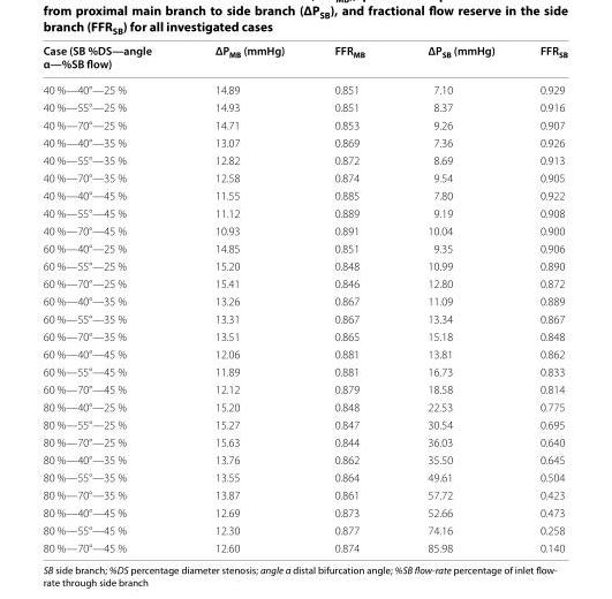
<table><thead><tr><td>Case (SB %DS—angle α—%SB flow)</td><td>ΔP<sub>MB</sub> (mmHg)</td><td>FFR<sub>MB</sub></td><td>ΔP<sub>SB</sub> (mmHg)</td><td>FFR<sub>SB</sub></td></tr></thead><tbody><tr><td>40 %—40°—25 %</td><td>14.89</td><td>0.851</td><td>7.10</td><td>0.929</td></tr><tr><td>40 %—55°—25 %</td><td>14.93</td><td>0.851</td><td>8.37</td><td>0.916</td></tr><tr><td>40 %—70°—25 %</td><td>14.71</td><td>0.853</td><td>9.26</td><td>0.907</td></tr><tr><td>40 %—40°—35 %</td><td>13.07</td><td>0.869</td><td>7.36</td><td>0.926</td></tr><tr><td>40 %—55°—35 %</td><td>12.82</td><td>0.872</td><td>8.69</td><td>0.913</td></tr><tr><td>40 %—70°—35 %</td><td>12.58</td><td>0.874</td><td>9.54</td><td>0.905</td></tr><tr><td>40 %—40°—45 %</td><td>11.55</td><td>0.885</td><td>7.80</td><td>0.922</td></tr><tr><td>40 %—55°—45 %</td><td>11.12</td><td>0.889</td><td>9.19</td><td>0.908</td></tr><tr><td>40 %—70°—45 %</td><td>10.93</td><td>0.891</td><td>10.04</td><td>0.900</td></tr><tr><td>60 %—40°—25 %</td><td>14.85</td><td>0.851</td><td>9.35</td><td>0.906</td></tr><tr><td>60 %—55°—25 %</td><td>15.20</td><td>0.848</td><td>10.99</td><td>0.890</td></tr><tr><td>60 %—70°—25 %</td><td>15.41</td><td>0.846</td><td>12.80</td><td>0.872</td></tr><tr><td>60 %—40°—35 %</td><td>13.26</td><td>0.867</td><td>11.09</td><td>0.889</td></tr><tr><td>60 %—55°—35 %</td><td>13.31</td><td>0.867</td><td>13.34</td><td>0.867</td></tr><tr><td>60 %—70°—35 %</td><td>13.51</td><td>0.865</td><td>15.18</td><td>0.848</td></tr><tr><td>60 %—40°—45 %</td><td>12.06</td><td>0.881</td><td>13.81</td><td>0.862</td></tr><tr><td>60 %—55°—45 %</td><td>11.89</td><td>0.881</td><td>16.73</td><td>0.833</td></tr><tr><td>60 %—70°—45 %</td><td>12.12</td><td>0.879</td><td>18.58</td><td>0.814</td></tr><tr><td>80 %—40°—25 %</td><td>15.20</td><td>0.848</td><td>22.53</td><td>0.775</td></tr><tr><td>80 %—55°—25 %</td><td>15.27</td><td>0.847</td><td>30.54</td><td>0.695</td></tr><tr><td>80 %—70°—25 %</td><td>15.63</td><td>0.844</td><td>36.03</td><td>0.640</td></tr><tr><td>80 %—40°—35 %</td><td>13.76</td><td>0.862</td><td>35.50</td><td>0.645</td></tr><tr><td>80 %—55°—35 %</td><td>13.55</td><td>0.864</td><td>49.61</td><td>0.504</td></tr><tr><td>80 %—70°—35 %</td><td>13.87</td><td>0.861</td><td>57.72</td><td>0.423</td></tr><tr><td>80 %—40°—45 %</td><td>12.69</td><td>0.873</td><td>52.66</td><td>0.473</td></tr><tr><td>80 %—55°—45 %</td><td>12.30</td><td>0.877</td><td>74.16</td><td>0.258</td></tr><tr><td>80 %—70°—45 %</td><td>12.60</td><td>0.874</td><td>85.98</td><td>0.140</td></tr></tbody></table>